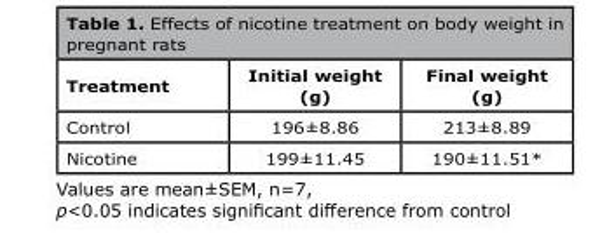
<table><thead><tr><td>Treatment</td><td>Initial weight (g)</td><td>Final weight (g)</td></tr></thead><tbody><tr><td>Control</td><td>196±8.86</td><td>213±8.89</td></tr><tr><td>Nicotine</td><td>199±11.45</td><td>190±11.51*</td></tr></tbody></table>